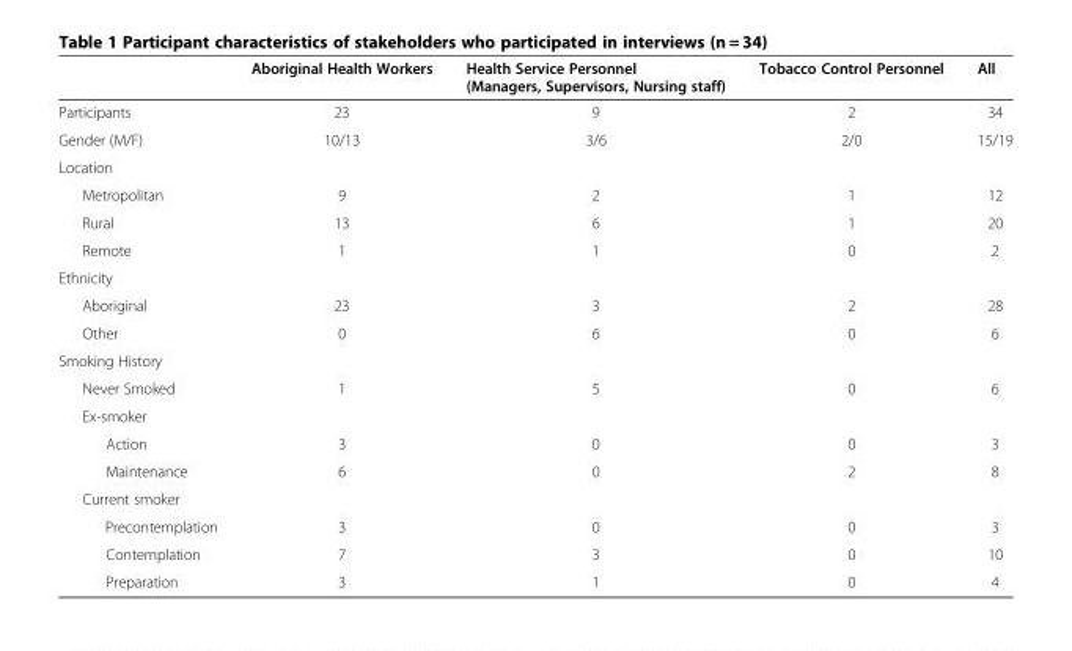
<table><thead><tr><td></td><td>Aboriginal Health Workers</td><td>Health Service Personnel (Managers, Supervisors, Nursing staff)</td><td>Tobacco Control Personnel</td><td>All</td></tr></thead><tbody><tr><td>Participants</td><td>23</td><td>9</td><td>2</td><td>34</td></tr><tr><td>Gender (M/F)</td><td>10/13</td><td>3/6</td><td>2/0</td><td>15/19</td></tr><tr><td colspan="5">Location</td></tr><tr><td>Metropolitan</td><td>9</td><td>2</td><td>1</td><td>12</td></tr><tr><td>Rural</td><td>13</td><td>6</td><td>1</td><td>20</td></tr><tr><td>Remote</td><td>1</td><td>1</td><td>0</td><td>2</td></tr><tr><td colspan="5">Ethnicity</td></tr><tr><td>Aboriginal</td><td>23</td><td>3</td><td>2</td><td>28</td></tr><tr><td>Other</td><td>0</td><td>6</td><td>0</td><td>6</td></tr><tr><td colspan="5">Smoking History</td></tr><tr><td>Never Smoked</td><td>1</td><td>5</td><td>0</td><td>6</td></tr><tr><td colspan="5">Ex-smoker</td></tr><tr><td>Action</td><td>3</td><td>0</td><td>0</td><td>3</td></tr><tr><td>Maintenance</td><td>6</td><td>0</td><td>2</td><td>8</td></tr><tr><td colspan="5">Current smoker</td></tr><tr><td>Precontemplation</td><td>3</td><td>0</td><td>0</td><td>3</td></tr><tr><td>Contemplation</td><td>7</td><td>3</td><td>0</td><td>10</td></tr><tr><td>Preparation</td><td>3</td><td>1</td><td>0</td><td>4</td></tr></tbody></table>